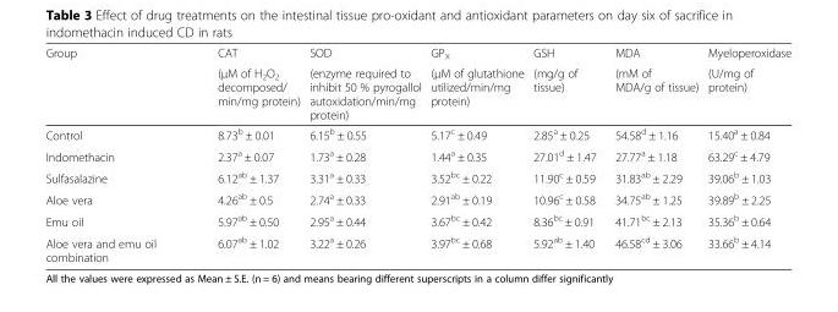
<table><thead><tr><td rowspan="2">Group</td><td rowspan="2">CAT (μM of H<sub>2</sub>O<sub>2</sub> decomposed/ min/mg protein)</td><td rowspan="2">SOD (enzyme required to inhibit 50 % pyrogallol autoxidation/min/mg protein)</td><td rowspan="2">GP<sub>X</sub> (μM of glutathione utilized/min/mg protein)</td><td rowspan="2">GSH (mg/g of tissue)</td><td rowspan="2">MDA (mM of MDA/g of tissue)</td><td rowspan="2">Myeloperoxidase (U/mg of protein)</td></tr><tr></tr></thead><tbody><tr><td>Control</td><td>8.73<sup>b</sup> ± 0.01</td><td>6.15<sup>b</sup> ± 0.55</td><td>5.17<sup>c</sup> ± 0.49</td><td>2.85<sup>a</sup> ± 0.25</td><td>54.58<sup>d</sup> ± 1.16</td><td>15.40<sup>a</sup> ± 0.84</td></tr><tr><td>Indomethacin</td><td>2.37<sup>a</sup> ± 0.07</td><td>1.73<sup>a</sup> ± 0.28</td><td>1.44<sup>a</sup> ± 0.35</td><td>27.01<sup>d</sup> ± 1.47</td><td>27.77<sup>a</sup> ± 1.18</td><td>63.29<sup>c</sup> ± 4.79</td></tr><tr><td>Sulfasalazine</td><td>6.12<sup>ab</sup> ± 1.37</td><td>3.31<sup>a</sup> ± 0.33</td><td>3.52<sup>bc</sup> ± 0.22</td><td>11.90<sup>c</sup> ± 0.59</td><td>31.83<sup>ab</sup> ± 2.29</td><td>39.06<sup>b</sup> ± 1.03</td></tr><tr><td>Aloe vera</td><td>4.26<sup>ab</sup> ± 0.5</td><td>2.74<sup>a</sup> ± 0.33</td><td>2.91<sup>ab</sup> ± 0.19</td><td>10.96<sup>c</sup> ± 0.58</td><td>34.75<sup>ab</sup> ± 1.25</td><td>39.89<sup>b</sup> ± 2.25</td></tr><tr><td>Emu oil</td><td>5.97<sup>ab</sup> ± 0.50</td><td>2.95<sup>a</sup> ± 0.44</td><td>3.67<sup>bc</sup> ± 0.42</td><td>8.36<sup>bc</sup> ± 0.91</td><td>41.71<sup>bc</sup> ± 2.13</td><td>35.36<sup>b</sup> ± 0.64</td></tr><tr><td>Aloe vera and emu oil combination</td><td>6.07<sup>ab</sup> ± 1.02</td><td>3.22<sup>a</sup> ± 0.26</td><td>3.97<sup>bc</sup> ± 0.68</td><td>5.92<sup>ab</sup> ± 1.40</td><td>46.58<sup>cd</sup> ± 3.06</td><td>33.66<sup>b</sup> ± 4.14</td></tr></tbody></table>